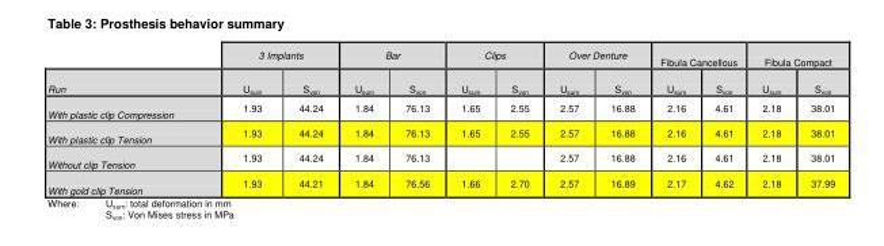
<table><thead><tr><td rowspan="2">Run</td><td colspan="2">3 Implants</td><td colspan="2">Bar</td><td colspan="2">Clips</td><td colspan="2">Over Denture</td><td colspan="2">Fibula Cancellous</td><td colspan="2">Fibula Compact</td></tr><tr><td>U<sub>sum</sub></td><td>S<sub>von</sub></td><td>U<sub>sum</sub></td><td>S<sub>von</sub></td><td>U<sub>sum</sub></td><td>S<sub>von</sub></td><td>U<sub>sum</sub></td><td>S<sub>von</sub></td><td>U<sub>sum</sub></td><td>S<sub>von</sub></td><td>U<sub>sum</sub></td><td>S<sub>von</sub></td></tr></thead><tbody><tr><td>With plastic clip Compression</td><td>1.93</td><td>44.24</td><td>1.84</td><td>76.13</td><td>1.65</td><td>2.55</td><td>2.57</td><td>16.88</td><td>2.16</td><td>4.61</td><td>2.18</td><td>38.01</td></tr><tr><td>With plastic clip Tension</td><td>1.93</td><td>44.24</td><td>1.84</td><td>76.13</td><td>1.65</td><td>2.55</td><td>2.57</td><td>16.88</td><td>2.16</td><td>4.61</td><td>2.18</td><td>38.01</td></tr><tr><td>Without clip Tension</td><td>1.93</td><td>44.24</td><td>1.84</td><td>76.13</td><td></td><td></td><td>2.57</td><td>16.88</td><td>2.16</td><td>4.61</td><td>2.18</td><td>38.01</td></tr><tr><td>With gold clip Tension</td><td>1.93</td><td>44.21</td><td>1.84</td><td>76.56</td><td>1.66</td><td>2.70</td><td>2.57</td><td>16.89</td><td>2.17</td><td>4.62</td><td>2.18</td><td>37.99</td></tr></tbody></table>